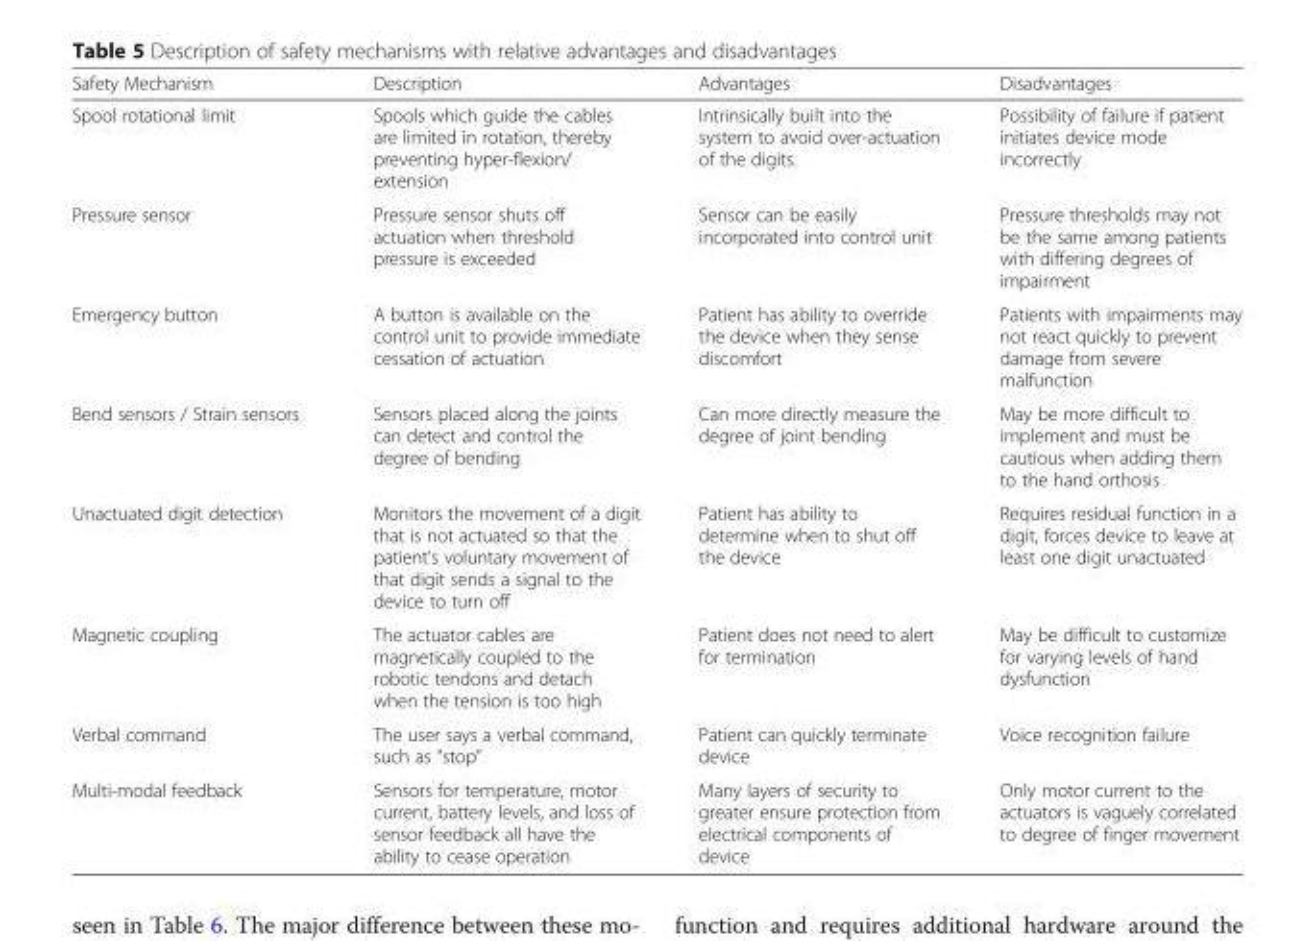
<table><thead><tr><td>Safety Mechanism</td><td>Description</td><td>Advantages</td><td>Disadvantages</td></tr></thead><tbody><tr><td>Spool rotational limit</td><td>Spools which guide the cables are limited in rotation, thereby preventing hyper-flexion/ extension</td><td>Intrinsically built into the system to avoid over-actuation of the digits.</td><td>Possibility of failure if patient initiates device mode incorrectly</td></tr><tr><td>Pressure sensor</td><td>Pressure sensor shuts off actuation when threshold pressure is exceeded</td><td>Sensor can be easily incorporated into control unit</td><td>Pressure thresholds may not be the same among patients with differing degrees of impairment</td></tr><tr><td>Emergency button</td><td>A button is available on the control unit to provide immediate cessation of actuation</td><td>Patient has ability to override the device when they sense discomfort</td><td>Patients with impairments may not react quickly to prevent damage from severe malfunction</td></tr><tr><td>Bend sensors / Strain sensors</td><td>Sensors placed along the joints can detect and control the degree of bending</td><td>Can more directly measure the degree of joint bending</td><td>May be more difficult to implement and must be cautious when adding them to the hand orthosis</td></tr><tr><td>Unactuated digit detection</td><td>Monitors the movement of a digit that is not actuated so that the patient’s voluntary movement of that digit sends a signal to the device to turn off</td><td>Patient has ability to determine when to shut off the device</td><td>Requires residual function in a digit, forces device to leave at least one digit unactuated</td></tr><tr><td>Magnetic coupling</td><td>The actuator cables are magnetically coupled to the robotic tendons and detach when the tension is too high</td><td>Patient does not need to alert for termination</td><td>May be difficult to customize for varying levels of hand dysfunction</td></tr><tr><td>Verbal command</td><td>The user says a verbal command, such as “stop”</td><td>Patient can quickly terminate device</td><td>Voice recognition failure</td></tr><tr><td>Multi-modal feedback</td><td>Sensors for temperature, motor current, battery levels, and loss of sensor feedback all have the ability to cease operation</td><td>Many layers of security to greater ensure protection from electrical components of device</td><td>Only motor current to the actuators is vaguely correlated to degree of finger movement</td></tr></tbody></table>